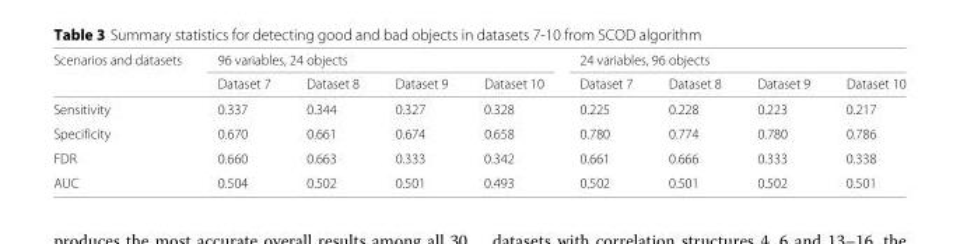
<table><thead><tr><td rowspan="2">Scenarios and datasets</td><td colspan="4">96 variables, 24 objects</td><td colspan="4">24 variables, 96 objects</td></tr><tr><td>Dataset 7</td><td>Dataset 8</td><td>Dataset 9</td><td>Dataset 10</td><td>Dataset 7</td><td>Dataset 8</td><td>Dataset 9</td><td>Dataset 10</td></tr></thead><tbody><tr><td>Sensitivity</td><td>0.337</td><td>0.344</td><td>0.327</td><td>0.328</td><td>0.225</td><td>0.228</td><td>0.223</td><td>0.217</td></tr><tr><td>Specificity</td><td>0.670</td><td>0.661</td><td>0.674</td><td>0.658</td><td>0.780</td><td>0.774</td><td>0.780</td><td>0.786</td></tr><tr><td>FDR</td><td>0.660</td><td>0.663</td><td>0.333</td><td>0.342</td><td>0.661</td><td>0.666</td><td>0.333</td><td>0.338</td></tr><tr><td>AUC</td><td>0.504</td><td>0.502</td><td>0.501</td><td>0.493</td><td>0.502</td><td>0.501</td><td>0.502</td><td>0.501</td></tr></tbody></table>